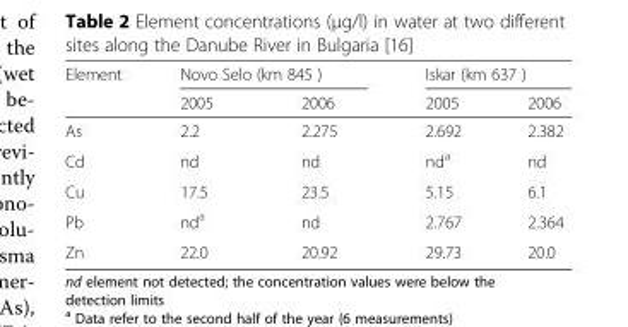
<table><thead><tr><td rowspan="2">Element</td><td colspan="2">Novo Selo (km 845 )</td><td colspan="2">Iskar (km 637 )</td></tr><tr><td>2005</td><td>2006</td><td>2005</td><td>2006</td></tr></thead><tbody><tr><td>As</td><td>2.2</td><td>2.275</td><td>2.692</td><td>2.382</td></tr><tr><td>Cd</td><td>nd</td><td>nd</td><td>nd<sup>a</sup></td><td>nd</td></tr><tr><td>Cu</td><td>17.5</td><td>23.5</td><td>5.15</td><td>6.1</td></tr><tr><td>Pb</td><td>nd<sup>a</sup></td><td>nd</td><td>2.767</td><td>2.364</td></tr><tr><td>Zn</td><td>22.0</td><td>20.92</td><td>29.73</td><td>20.0</td></tr></tbody></table>